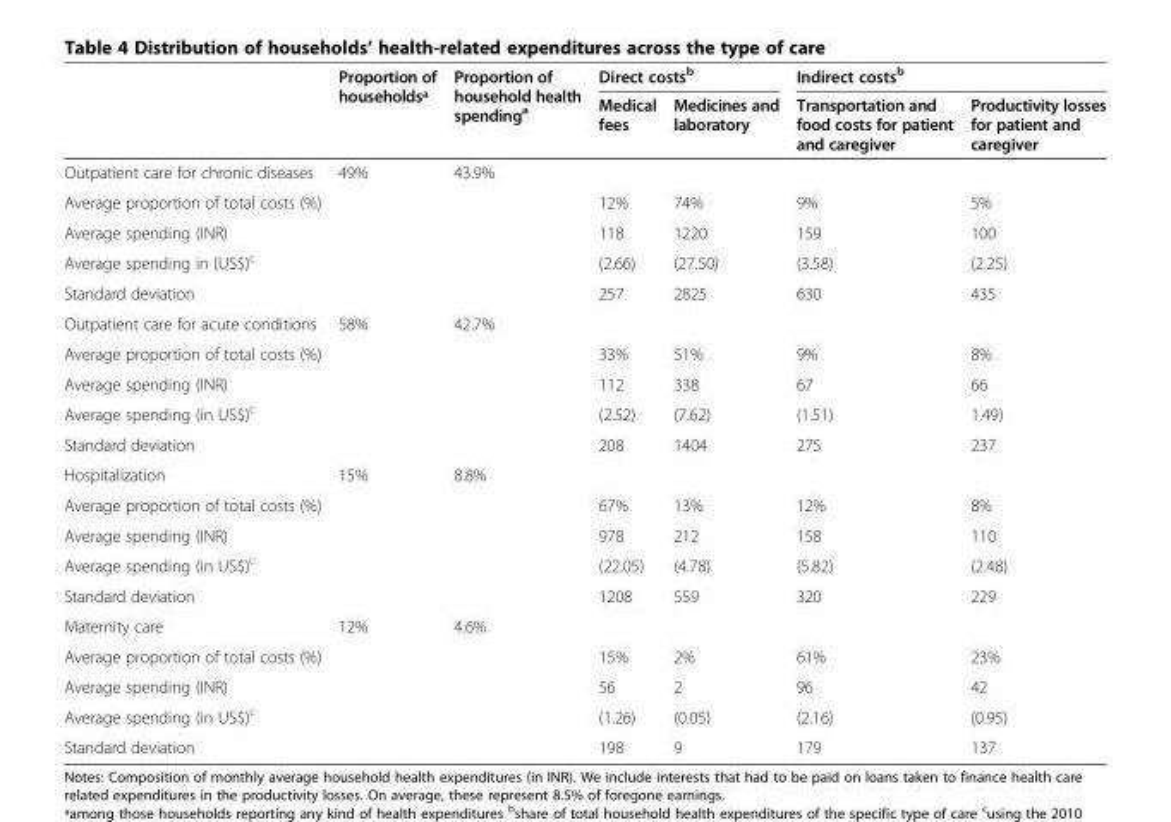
<table><thead><tr><td rowspan="2"></td><td rowspan="2">Proportion of householdsª</td><td rowspan="2">Proportion of household health spending<sup>a</sup></td><td colspan="2">Direct costs<sup>b</sup></td><td colspan="2">Indirect costs<sup>b</sup></td></tr><tr><td>Medical fees</td><td>Medicines and laboratory</td><td>Transportation and food costs for patient and caregiver</td><td>Productivity losses for patient and caregiver</td></tr></thead><tbody><tr><td>Outpatient care for chronic diseases</td><td>49%</td><td>43.9%</td><td></td><td></td><td></td><td></td></tr><tr><td>Average proportion of total costs (%)</td><td></td><td></td><td>12%</td><td>74%</td><td>9%</td><td>5%</td></tr><tr><td>Average spending (INR)</td><td></td><td></td><td>118</td><td>1220</td><td>159</td><td>100</td></tr><tr><td>Average spending in (US$)<sup>c</sup></td><td></td><td></td><td>(2.66)</td><td>(27.50)</td><td>(3.58)</td><td>(2.25)</td></tr><tr><td>Standard deviation</td><td></td><td></td><td>257</td><td>2825</td><td>630</td><td>435</td></tr><tr><td>Outpatient care for acute conditions</td><td>58%</td><td>42.7%</td><td></td><td></td><td></td><td></td></tr><tr><td>Average proportion of total costs (%)</td><td></td><td></td><td>33%</td><td>51%</td><td>9%</td><td>8%</td></tr><tr><td>Average spending (INR)</td><td></td><td></td><td>112</td><td>338</td><td>67</td><td>66</td></tr><tr><td>Average spending (in US$)<sup>c</sup></td><td></td><td></td><td>(2.52)</td><td>(7.62)</td><td>(1.51)</td><td>1.49)</td></tr><tr><td>Standard deviation</td><td></td><td></td><td>208</td><td>1404</td><td>275</td><td>237</td></tr><tr><td>Hospitalization</td><td>15%</td><td>8.8%</td><td></td><td></td><td></td><td></td></tr><tr><td>Average proportion of total costs (%)</td><td></td><td></td><td>67%</td><td>13%</td><td>12%</td><td>8%</td></tr><tr><td>Average spending (INR)</td><td></td><td></td><td>978</td><td>212</td><td>158</td><td>110</td></tr><tr><td>Average spending (in US$)<sup>c</sup></td><td></td><td></td><td>(22.05)</td><td>(4.78)</td><td>(5.82)</td><td>(2.48)</td></tr><tr><td>Standard deviation</td><td></td><td></td><td>1208</td><td>559</td><td>320</td><td>229</td></tr><tr><td>Maternity care</td><td>12%</td><td>4.6%</td><td></td><td></td><td></td><td></td></tr><tr><td>Average proportion of total costs (%)</td><td></td><td></td><td>15%</td><td>2%</td><td>61%</td><td>23%</td></tr><tr><td>Average spending (INR)</td><td></td><td></td><td>56</td><td>2</td><td>96</td><td>42</td></tr><tr><td>Average spending (in US$)<sup>c</sup></td><td></td><td></td><td>(1.26)</td><td>(0.05)</td><td>(2.16)</td><td>(0.95)</td></tr><tr><td>Standard deviation</td><td></td><td></td><td>198</td><td>9</td><td>179</td><td>137</td></tr></tbody></table>